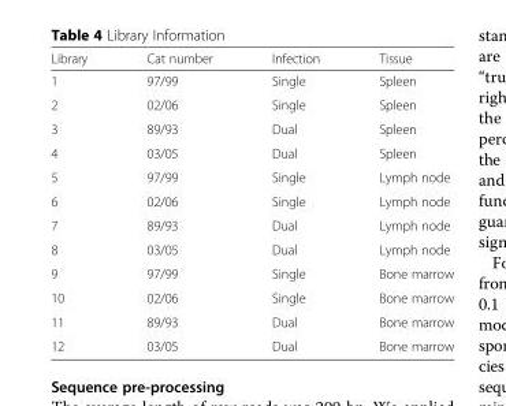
<table><thead><tr><td>Library</td><td>Cat number</td><td>Infection</td><td>Tissue</td></tr></thead><tbody><tr><td>1</td><td>97/99</td><td>Single</td><td>Spleen</td></tr><tr><td>2</td><td>02/06</td><td>Single</td><td>Spleen</td></tr><tr><td>3</td><td>89/93</td><td>Dual</td><td>Spleen</td></tr><tr><td>4</td><td>03/05</td><td>Dual</td><td>Spleen</td></tr><tr><td>5</td><td>97/99</td><td>Single</td><td>Lymph node</td></tr><tr><td>6</td><td>02/06</td><td>Single</td><td>Lymph node</td></tr><tr><td>7</td><td>89/93</td><td>Dual</td><td>Lymph node</td></tr><tr><td>8</td><td>03/05</td><td>Dual</td><td>Lymph node</td></tr><tr><td>9</td><td>97/99</td><td>Single</td><td>Bone marrow</td></tr><tr><td>10</td><td>02/06</td><td>Single</td><td>Bone marrow</td></tr><tr><td>11</td><td>89/93</td><td>Dual</td><td>Bone marrow</td></tr><tr><td>12</td><td>03/05</td><td>Dual</td><td>Bone marrow</td></tr></tbody></table>